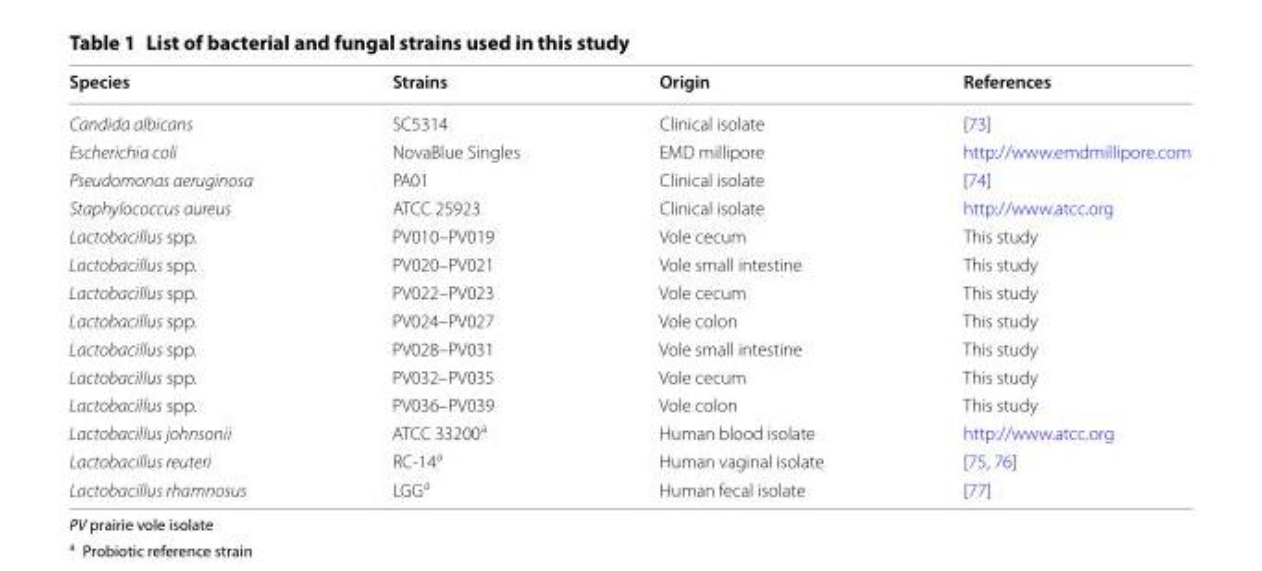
<table><thead><tr><td>Species</td><td>Strains</td><td>Origin</td><td>References</td></tr></thead><tbody><tr><td>Candida albicans</td><td>SC5314</td><td>Clinical isolate</td><td>[73]</td></tr><tr><td>Escherichia coli</td><td>NovaBlue Singles</td><td>EMD millipore</td><td>http://www.emdmillipore.com</td></tr><tr><td>Pseudomonas aeruginosa</td><td>PA01</td><td>Clinical isolate</td><td>[74]</td></tr><tr><td>Staphylococcus aureus</td><td>ATCC 25923</td><td>Clinical isolate</td><td>http://www.atcc.org</td></tr><tr><td>Lactobacillus spp.</td><td>PV010–PV019</td><td>Vole cecum</td><td>This study</td></tr><tr><td>Lactobacillus spp.</td><td>PV020–PV021</td><td>Vole small intestine</td><td>This study</td></tr><tr><td>Lactobacillus spp.</td><td>PV022–PV023</td><td>Vole cecum</td><td>This study</td></tr><tr><td>Lactobacillus spp.</td><td>PV024–PV027</td><td>Vole colon</td><td>This study</td></tr><tr><td>Lactobacillus spp.</td><td>PV028–PV031</td><td>Vole small intestine</td><td>This study</td></tr><tr><td>Lactobacillus spp.</td><td>PV032–PV035</td><td>Vole cecum</td><td>This study</td></tr><tr><td>Lactobacillus spp.</td><td>PV036–PV039</td><td>Vole colon</td><td>This study</td></tr><tr><td>Lactobacillus johnsonii</td><td>ATCC 33200<sup>a</sup></td><td>Human blood isolate</td><td>http://www.atcc.org</td></tr><tr><td>Lactobacillus reuteri</td><td>RC-14<sup>a</sup></td><td>Human vaginal isolate</td><td>[75, 76]</td></tr><tr><td>Lactobacillus rhamnosus</td><td>LGG<sup>a</sup></td><td>Human fecal isolate</td><td>[77]</td></tr></tbody></table>